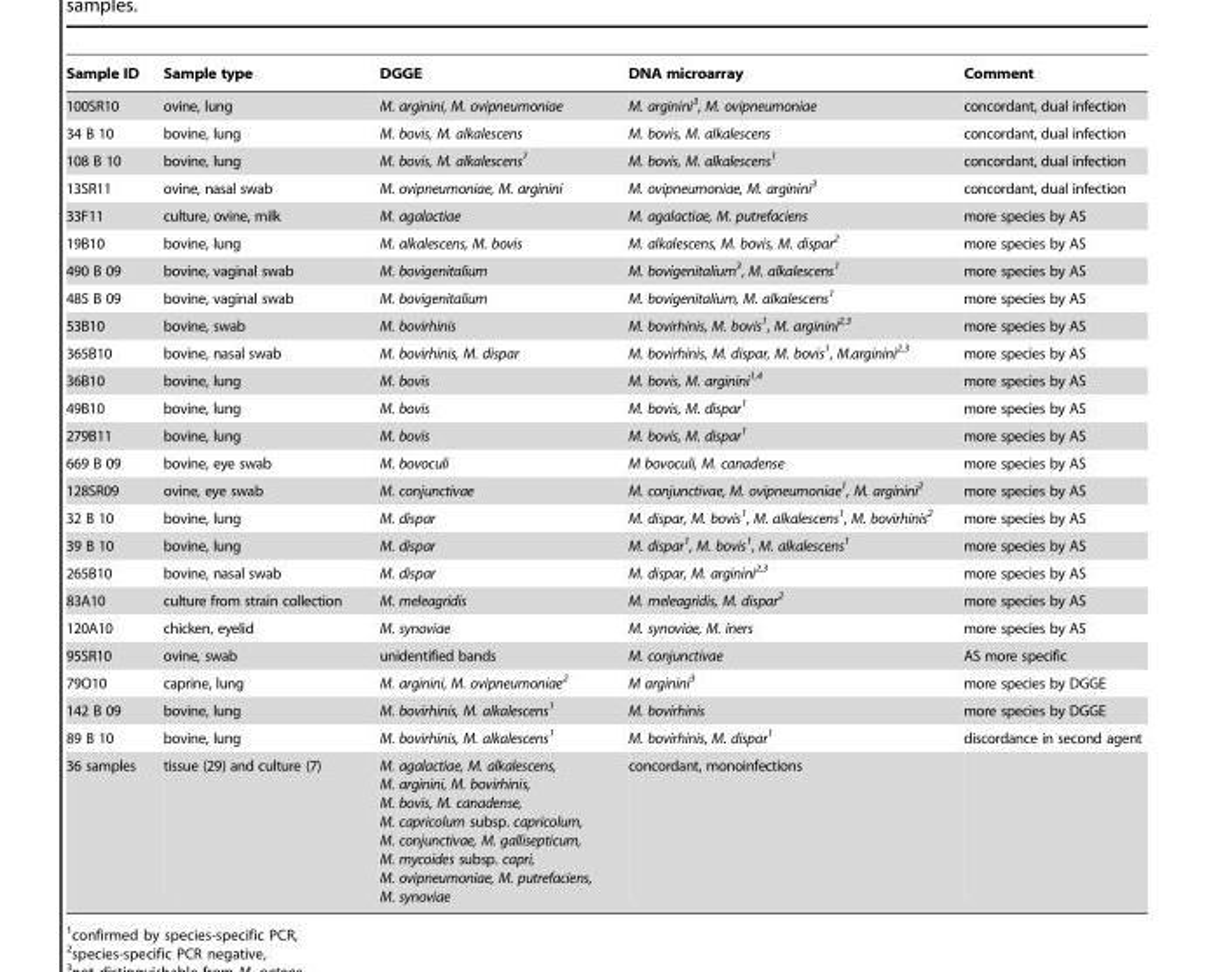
<table><thead><tr><td>Sample ID</td><td>Sample type</td><td>DGGE</td><td>DNA microarray</td><td>Comment</td></tr></thead><tbody><tr><td>100SR10</td><td>ovine, lung</td><td>M. arginini, M. ovipneumoniae</td><td>M. arginini3, M. ovipneumoniae</td><td>concordant, dual infection</td></tr><tr><td>34 B 10</td><td>bovine, lung</td><td>M. bovis, M. alkalescens</td><td>M. bovis, M. alkalescens</td><td>concordant, dual infection</td></tr><tr><td>108 B 10</td><td>bovine, lung</td><td>M. bovis, M. alkalescens1</td><td>M. bovis, M. alkalescens1</td><td>concordant, dual infection</td></tr><tr><td>13SR11</td><td>ovine, nasal swab</td><td>M. ovipneumoniae, M. arginini</td><td>M. ovipneumoniae, M. arginini3</td><td>concordant, dual infection</td></tr><tr><td>33F11</td><td>culture, ovine, milk</td><td>M. agalactiae</td><td>M. agalactiae, M. putrefaciens</td><td>more species by AS</td></tr><tr><td>19B10</td><td>bovine, lung</td><td>M. alkalescens, M. bovis</td><td>M. alkalescens, M. bovis, M. dispar2</td><td>more species by AS</td></tr><tr><td>490 B 09</td><td>bovine, vaginal swab</td><td>M. bovigenitalium</td><td>M. bovigenitalium3, M. alkalescens1</td><td>more species by AS</td></tr><tr><td>485 B 09</td><td>bovine, vaginal swab</td><td>M. bovigenitalium</td><td>M. bovigenitalium, M. alkalescens1</td><td>more species by AS</td></tr><tr><td>53B10</td><td>bovine, swab</td><td>M. bovirhinis</td><td>M. bovirhinis, M. bovis1, M. arginini2<sup>,</sup>3</td><td>more species by AS</td></tr><tr><td>365B10</td><td>bovine, nasal swab</td><td>M. bovirhinis, M. dispar</td><td>M. bovirhinis, M. dispar, M. bovis1, M.arginini2<sup>,</sup>3</td><td>more species by AS</td></tr><tr><td>36B10</td><td>bovine, lung</td><td>M. bovis</td><td>M. bovis, M. arginini1<sup>,4</sup></td><td>more species by AS</td></tr><tr><td>49B10</td><td>bovine, lung</td><td>M. bovis</td><td>M. bovis, M. dispar1</td><td>more species by AS</td></tr><tr><td>279B11</td><td>bovine, lung</td><td>M. bovis</td><td>M. bovis, M. dispar1</td><td>more species by AS</td></tr><tr><td>669 B 09</td><td>bovine, eye swab</td><td>M. bovoculi</td><td>M bovoculi, M. canadense</td><td>more species by AS</td></tr><tr><td>128SR09</td><td>ovine, eye swab</td><td>M. conjunctivae</td><td>M. conjunctivae, M. ovipneumoniae1, M. arginini2</td><td>more species by AS</td></tr><tr><td>32 B 10</td><td>bovine, lung</td><td>M. dispar</td><td>M. dispar, M. bovis1, M. alkalescens1, M. bovirhinis2</td><td>more species by AS</td></tr><tr><td>39 B 10</td><td>bovine, lung</td><td>M. dispar</td><td>M. dispar1, M. bovis1, M. alkalescens1</td><td>more species by AS</td></tr><tr><td>265B10</td><td>bovine, nasal swab</td><td>M. dispar</td><td>M. dispar, M. arginini2<sup>,</sup>3</td><td>more species by AS</td></tr><tr><td>83A10</td><td>culture from strain collection</td><td>M. meleagridis</td><td>M. meleagridis, M. dispar2</td><td>more species by AS</td></tr><tr><td>120A10</td><td>chicken, eyelid</td><td>M. synoviae</td><td>M. synoviae, M. iners</td><td>more species by AS</td></tr><tr><td>95SR10</td><td>ovine, swab</td><td>unidentified bands</td><td>M. conjunctivae</td><td>AS more specific</td></tr><tr><td>79O10</td><td>caprine, lung</td><td>M. arginini, M. ovipneumoniae2</td><td>M arginini3</td><td>more species by DGGE</td></tr><tr><td>142 B 09</td><td>bovine, lung</td><td>M. bovirhinis, M. alkalescens1</td><td>M. bovirhinis</td><td>more species by DGGE</td></tr><tr><td>89 B 10</td><td>bovine, lung</td><td>M. bovirhinis, M. alkalescens1</td><td>M. bovirhinis, M. dispar1</td><td>discordance in second agent</td></tr><tr><td>36 samples</td><td>tissue (29) and culture (7)</td><td>M. agalactiae, M. alkalescens, M. arginini, M. bovirhinis, M. bovis, M. canadense, M. capricolum subsp. capricolum, M. conjunctivae, M. gallisepticum, M. mycoides subsp. capri, M. ovipneumoniae, M. putrefaciens, M. synoviae</td><td>concordant, monoinfections</td><td></td></tr></tbody></table>